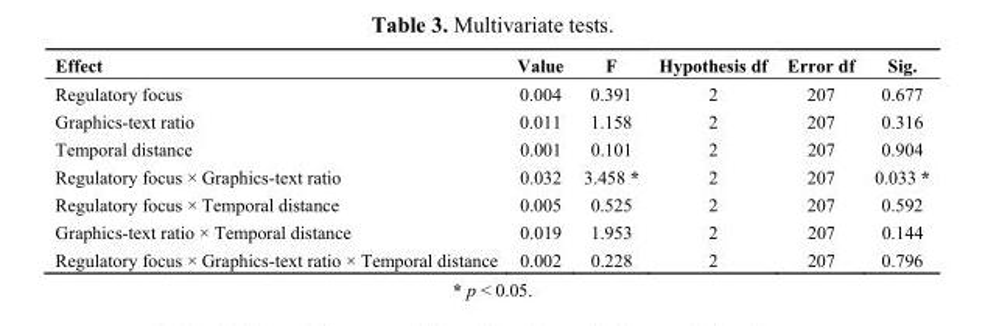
<table><thead><tr><td>Effect</td><td>Value</td><td>F</td><td>Hypothesis df</td><td>Error df</td><td>Sig.</td></tr></thead><tbody><tr><td>Regulatory focus</td><td>0.004</td><td>0.391</td><td>2</td><td>207</td><td>0.677</td></tr><tr><td>Graphics-text ratio</td><td>0.011</td><td>1.158</td><td>2</td><td>207</td><td>0.316</td></tr><tr><td>Temporal distance</td><td>0.001</td><td>0.101</td><td>2</td><td>207</td><td>0.904</td></tr><tr><td>Regulatory focus × Graphics-text ratio</td><td>0.032</td><td>3.458 *</td><td>2</td><td>207</td><td>0.033 *</td></tr><tr><td>Regulatory focus × Temporal distance</td><td>0.005</td><td>0.525</td><td>2</td><td>207</td><td>0.592</td></tr><tr><td>Graphics-text ratio × Temporal distance</td><td>0.019</td><td>1.953</td><td>2</td><td>207</td><td>0.144</td></tr><tr><td>Regulatory focus × Graphics-text ratio × Temporal distance</td><td>0.002</td><td>0.228</td><td>2</td><td>207</td><td>0.796</td></tr></tbody></table>